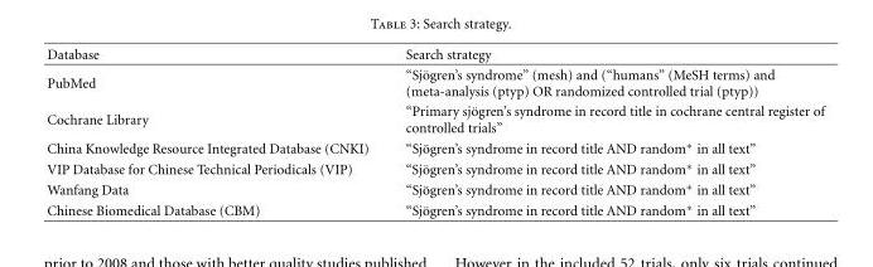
<table><thead><tr><td>Database</td><td>Search strategy</td></tr></thead><tbody><tr><td>PubMed</td><td>“Sj¨ogren’s syndrome” (mesh) and (“humans” (MeSH terms) and (meta-analysis (ptyp) OR randomized controlled trial (ptyp))</td></tr><tr><td>Cochrane Library</td><td>“Primary sj¨ogren’s syndrome in record title in cochrane central register of controlled trials”</td></tr><tr><td>China Knowledge Resource Integrated Database (CNKI)</td><td>“Sj¨ogren’s syndrome in record title AND random∗ in all text”</td></tr><tr><td>VIP Database for Chinese Technical Periodicals (VIP)</td><td>“Sj¨ogren’s syndrome in record title AND random∗ in all text”</td></tr><tr><td>Wanfang Data</td><td>“Sj¨ogren’s syndrome in record title AND random∗ in all text”</td></tr><tr><td>Chinese Biomedical Database (CBM)</td><td>“Sj¨ogren’s syndrome in record title AND random∗ in all text”</td></tr></tbody></table>